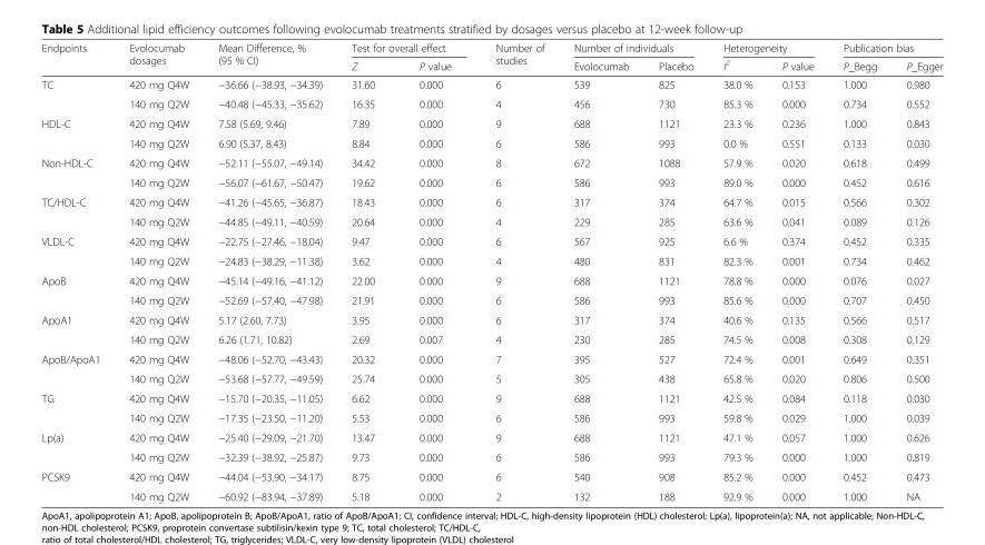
<table><thead><tr><td rowspan="2">Endpoints</td><td rowspan="2">Evolocumab dosages</td><td rowspan="2">Mean Difference, % (95 % CI)</td><td colspan="2">Test for overall effect</td><td rowspan="2">Number of studies</td><td colspan="2">Number of individuals</td><td colspan="2">Heterogeneity</td><td colspan="2">Publication bias</td></tr><tr><td>Z</td><td>P value</td><td>Evolocumab</td><td>Placebo</td><td>I<sup>2</sup></td><td>P value</td><td>P_Begg</td><td>P_Egger</td></tr></thead><tbody><tr><td rowspan="2">TC</td><td>420 mg Q4W</td><td>−36.66 (−38.93, −34.39)</td><td>31.60</td><td>0.000</td><td>6</td><td>539</td><td>825</td><td>38.0 %</td><td>0.153</td><td>1.000</td><td>0.980</td></tr><tr><td>140 mg Q2W</td><td>−40.48 (−45.33, −35.62)</td><td>16.35</td><td>0.000</td><td>4</td><td>456</td><td>730</td><td>85.3 %</td><td>0.000</td><td>0.734</td><td>0.552</td></tr><tr><td rowspan="2">HDL-C</td><td>420 mg Q4W</td><td>7.58 (5.69, 9.46)</td><td>7.89</td><td>0.000</td><td>9</td><td>688</td><td>1121</td><td>23.3 %</td><td>0.236</td><td>1.000</td><td>0.843</td></tr><tr><td>140 mg Q2W</td><td>6.90 (5.37, 8.43)</td><td>8.84</td><td>0.000</td><td>6</td><td>586</td><td>993</td><td>0.0 %</td><td>0.551</td><td>0.133</td><td>0.030</td></tr><tr><td rowspan="2">Non-HDL-C</td><td>420 mg Q4W</td><td>−52.11 (−55.07, −49.14)</td><td>34.42</td><td>0.000</td><td>8</td><td>672</td><td>1088</td><td>57.9 %</td><td>0.020</td><td>0.618</td><td>0.499</td></tr><tr><td>140 mg Q2W</td><td>−56.07 (−61.67, −50.47)</td><td>19.62</td><td>0.000</td><td>6</td><td>586</td><td>993</td><td>89.0 %</td><td>0.000</td><td>0.452</td><td>0.616</td></tr><tr><td rowspan="2">TC/HDL-C</td><td>420 mg Q4W</td><td>−41.26 (−45.65, −36.87)</td><td>18.43</td><td>0.000</td><td>6</td><td>317</td><td>374</td><td>64.7 %</td><td>0.015</td><td>0.566</td><td>0.302</td></tr><tr><td>140 mg Q2W</td><td>−44.85 (−49.11, −40.59)</td><td>20.64</td><td>0.000</td><td>4</td><td>229</td><td>285</td><td>63.6 %</td><td>0.041</td><td>0.089</td><td>0.126</td></tr><tr><td rowspan="2">VLDL-C</td><td>420 mg Q4W</td><td>−22.75 (−27.46, −18.04)</td><td>9.47</td><td>0.000</td><td>6</td><td>567</td><td>925</td><td>6.6 %</td><td>0.374</td><td>0.452</td><td>0.335</td></tr><tr><td>140 mg Q2W</td><td>−24.83 (−38.29, −11.38)</td><td>3.62</td><td>0.000</td><td>4</td><td>480</td><td>831</td><td>82.3 %</td><td>0.001</td><td>0.734</td><td>0.462</td></tr><tr><td rowspan="2">ApoB</td><td>420 mg Q4W</td><td>−45.14 (−49.16, −41.12)</td><td>22.00</td><td>0.000</td><td>9</td><td>688</td><td>1121</td><td>78.8 %</td><td>0.000</td><td>0.076</td><td>0.027</td></tr><tr><td>140 mg Q2W</td><td>−52.69 (−57.40, −47.98)</td><td>21.91</td><td>0.000</td><td>6</td><td>586</td><td>993</td><td>85.6 %</td><td>0.000</td><td>0.707</td><td>0.450</td></tr><tr><td rowspan="2">ApoA1</td><td>420 mg Q4W</td><td>5.17 (2.60, 7.73)</td><td>3.95</td><td>0.000</td><td>6</td><td>317</td><td>374</td><td>40.6 %</td><td>0.135</td><td>0.566</td><td>0.517</td></tr><tr><td>140 mg Q2W</td><td>6.26 (1.71, 10.82)</td><td>2.69</td><td>0.007</td><td>4</td><td>230</td><td>285</td><td>74.5 %</td><td>0.008</td><td>0.308</td><td>0.129</td></tr><tr><td rowspan="2">ApoB/ApoA1</td><td>420 mg Q4W</td><td>−48.06 (−52.70, −43.43)</td><td>20.32</td><td>0.000</td><td>7</td><td>395</td><td>527</td><td>72.4 %</td><td>0.001</td><td>0.649</td><td>0.351</td></tr><tr><td>140 mg Q2W</td><td>−53.68 (−57.77, −49.59)</td><td>25.74</td><td>0.000</td><td>5</td><td>305</td><td>438</td><td>65.8 %</td><td>0.020</td><td>0.806</td><td>0.500</td></tr><tr><td rowspan="2">TG</td><td>420 mg Q4W</td><td>−15.70 (−20.35, −11.05)</td><td>6.62</td><td>0.000</td><td>9</td><td>688</td><td>1121</td><td>42.5 %</td><td>0.084</td><td>0.118</td><td>0.030</td></tr><tr><td>140 mg Q2W</td><td>−17.35 (−23.50, −11.20)</td><td>5.53</td><td>0.000</td><td>6</td><td>586</td><td>993</td><td>59.8 %</td><td>0.029</td><td>1.000</td><td>0.039</td></tr><tr><td rowspan="2">Lp(a)</td><td>420 mg Q4W</td><td>−25.40 (−29.09, −21.70)</td><td>13.47</td><td>0.000</td><td>9</td><td>688</td><td>1121</td><td>47.1 %</td><td>0.057</td><td>1.000</td><td>0.626</td></tr><tr><td>140 mg Q2W</td><td>−32.39 (−38.92, −25.87)</td><td>9.73</td><td>0.000</td><td>6</td><td>586</td><td>993</td><td>79.3 %</td><td>0.000</td><td>1.000</td><td>0.819</td></tr><tr><td rowspan="2">PCSK9</td><td>420 mg Q4W</td><td>−44.04 (−53.90, −34.17)</td><td>8.75</td><td>0.000</td><td>6</td><td>540</td><td>908</td><td>85.2 %</td><td>0.000</td><td>0.452</td><td>0.473</td></tr><tr><td>140 mg Q2W</td><td>−60.92 (−83.94, −37.89)</td><td>5.18</td><td>0.000</td><td>2</td><td>132</td><td>188</td><td>92.9 %</td><td>0.000</td><td>1.000</td><td>NA</td></tr></tbody></table>